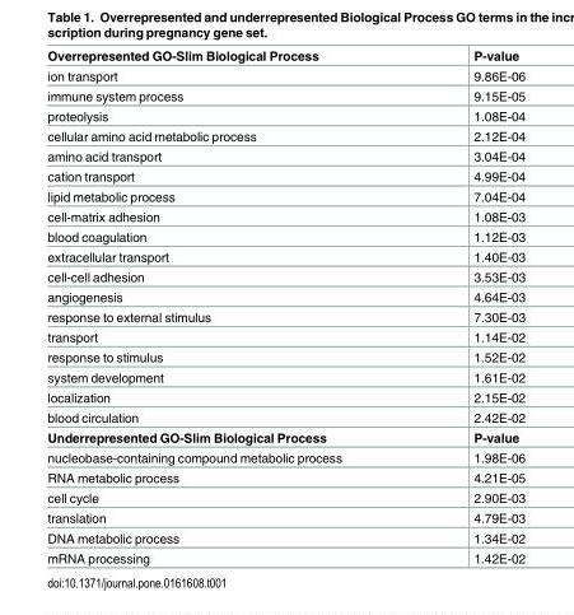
<table><tbody><tr><td>Overrepresented GO-Slim Biological Process</td><td>P-value</td></tr><tr><td>ion transport</td><td>9.86E-06</td></tr><tr><td>immune system process</td><td>9.15E-05</td></tr><tr><td>proteolysis</td><td>1.08E-04</td></tr><tr><td>cellular amino acid metabolic process</td><td>2.12E-04</td></tr><tr><td>amino acid transport</td><td>3.04E-04</td></tr><tr><td>cation transport</td><td>4.99E-04</td></tr><tr><td>lipid metabolic process</td><td>7.04E-04</td></tr><tr><td>cell-matrix adhesion</td><td>1.08E-03</td></tr><tr><td>blood coagulation</td><td>1.12E-03</td></tr><tr><td>extracellular transport</td><td>1.40E-03</td></tr><tr><td>cell-cell adhesion</td><td>3.53E-03</td></tr><tr><td>angiogenesis</td><td>4.64E-03</td></tr><tr><td>response to external stimulus</td><td>7.30E-03</td></tr><tr><td>transport</td><td>1.14E-02</td></tr><tr><td>response to stimulus</td><td>1.52E-02</td></tr><tr><td>system development</td><td>1.61E-02</td></tr><tr><td>localization</td><td>2.15E-02</td></tr><tr><td>blood circulation</td><td>2.42E-02</td></tr><tr><td>Underrepresented GO-Slim Biological Process</td><td>P-value</td></tr><tr><td>nucleobase-containing compound metabolic process</td><td>1.98E-06</td></tr><tr><td>RNA metabolic process</td><td>4.21E-05</td></tr><tr><td>cell cycle</td><td>2.90E-03</td></tr><tr><td>translation</td><td>4.79E-03</td></tr><tr><td>DNA metabolic process</td><td>1.34E-02</td></tr><tr><td>mRNA processing</td><td>1.42E-02</td></tr></tbody></table>